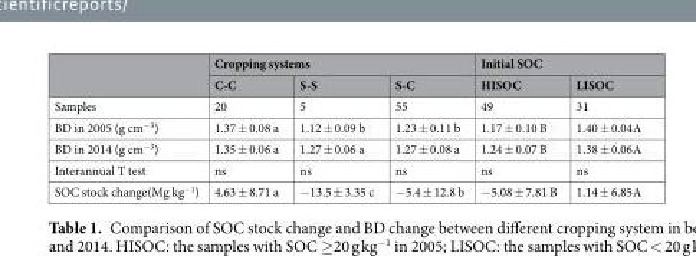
<table><thead><tr><td rowspan="2"></td><td colspan="3">Cropping systems</td><td colspan="2">Initial SOC</td></tr><tr><td>C-C</td><td>S-S</td><td>S-C</td><td>HISOC</td><td>LISOC</td></tr></thead><tbody><tr><td>Samples</td><td>20</td><td>5</td><td>55</td><td>49</td><td>31</td></tr><tr><td>BD in 2005 (g cm<sup>−3</sup>)</td><td>1.37 ± 0.08 a</td><td>1.12 ± 0.09 b</td><td>1.23 ± 0.11 b</td><td>1.17 ± 0.10 B</td><td>1.40 ± 0.04A</td></tr><tr><td>BD in 2014 (g cm<sup>−3</sup>)</td><td>1.35 ± 0.06 a</td><td>1.27 ± 0.06 a</td><td>1.27 ± 0.08 a</td><td>1.24 ± 0.07 B</td><td>1.38 ± 0.06A</td></tr><tr><td>Interannual T test</td><td>ns</td><td>ns</td><td>ns</td><td>ns</td><td>ns</td></tr><tr><td>SOC stock change(Mg kg<sup>−1</sup>)</td><td>4.63 ± 8.71 a</td><td>−13.5 ± 3.35 c</td><td>−5.4 ± 12.8 b</td><td>−5.08 ± 7.81 B</td><td>1.14 ± 6.85A</td></tr></tbody></table>